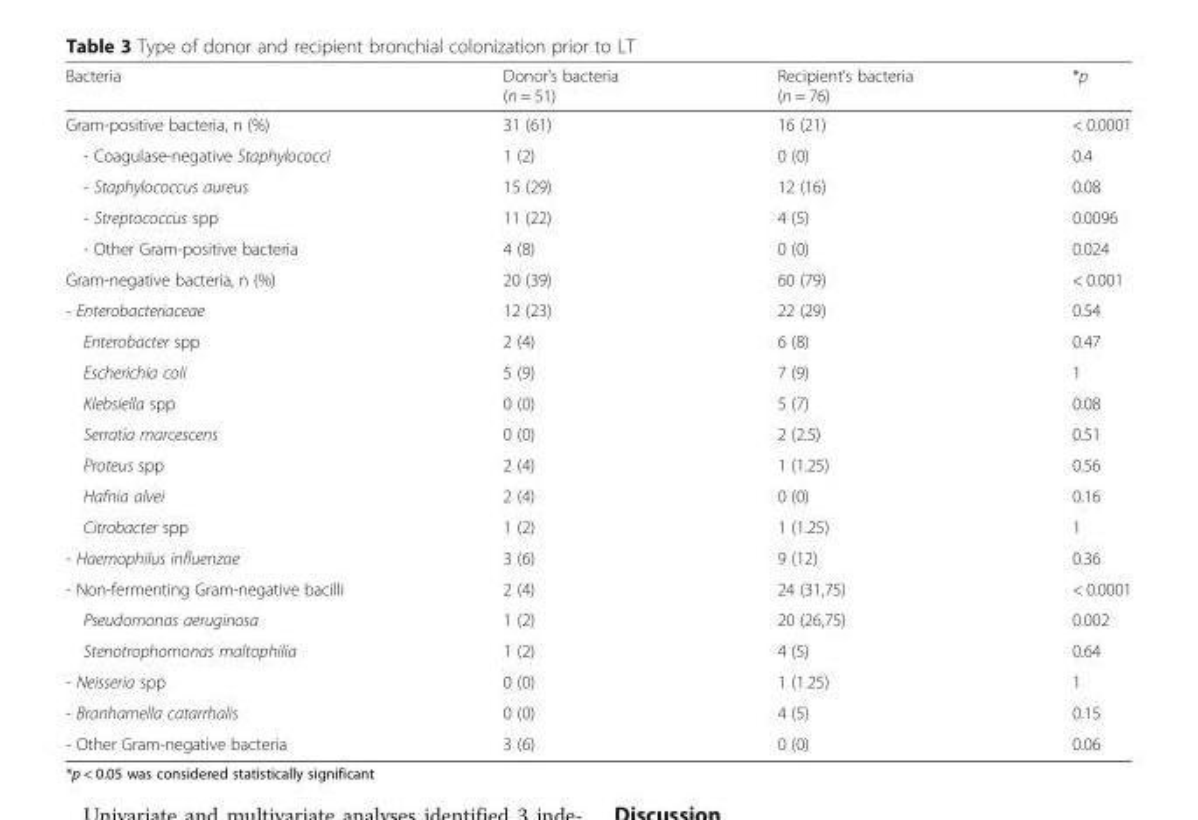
<table><thead><tr><td>Bacteria</td><td>Donor’s bacteria (n = 51)</td><td>Recipient’s bacteria (n = 76)</td><td>*p</td></tr></thead><tbody><tr><td>Gram-positive bacteria, n (%)</td><td>31 (61)</td><td>16 (21)</td><td>&lt; 0.0001</td></tr><tr><td>- Coagulase-negative Staphylococci</td><td>1 (2)</td><td>0 (0)</td><td>0.4</td></tr><tr><td>- Staphylococcus aureus</td><td>15 (29)</td><td>12 (16)</td><td>0.08</td></tr><tr><td>- Streptococcus spp</td><td>11 (22)</td><td>4 (5)</td><td>0.0096</td></tr><tr><td>- Other Gram-positive bacteria</td><td>4 (8)</td><td>0 (0)</td><td>0.024</td></tr><tr><td>Gram-negative bacteria, n (%)</td><td>20 (39)</td><td>60 (79)</td><td>&lt; 0.001</td></tr><tr><td>- Enterobacteriaceae</td><td>12 (23)</td><td>22 (29)</td><td>0.54</td></tr><tr><td>Enterobacter spp</td><td>2 (4)</td><td>6 (8)</td><td>0.47</td></tr><tr><td>Escherichia coli</td><td>5 (9)</td><td>7 (9)</td><td>1</td></tr><tr><td>Klebsiella spp</td><td>0 (0)</td><td>5 (7)</td><td>0.08</td></tr><tr><td>Serratia marcescens</td><td>0 (0)</td><td>2 (2.5)</td><td>0.51</td></tr><tr><td>Proteus spp</td><td>2 (4)</td><td>1 (1.25)</td><td>0.56</td></tr><tr><td>Hafnia alvei</td><td>2 (4)</td><td>0 (0)</td><td>0.16</td></tr><tr><td>Citrobacter spp</td><td>1 (2)</td><td>1 (1.25)</td><td>1</td></tr><tr><td>- Haemophilus influenzae</td><td>3 (6)</td><td>9 (12)</td><td>0.36</td></tr><tr><td>- Non-fermenting Gram-negative bacilli</td><td>2 (4)</td><td>24 (31,75)</td><td>&lt; 0.0001</td></tr><tr><td>Pseudomonas aeruginosa</td><td>1 (2)</td><td>20 (26,75)</td><td>0.002</td></tr><tr><td>Stenotrophomonas maltophilia</td><td>1 (2)</td><td>4 (5)</td><td>0.64</td></tr><tr><td>- Neisseria spp</td><td>0 (0)</td><td>1 (1.25)</td><td>1</td></tr><tr><td>- Branhamella catarrhalis</td><td>0 (0)</td><td>4 (5)</td><td>0.15</td></tr><tr><td>- Other Gram-negative bacteria</td><td>3 (6)</td><td>0 (0)</td><td>0.06</td></tr></tbody></table>